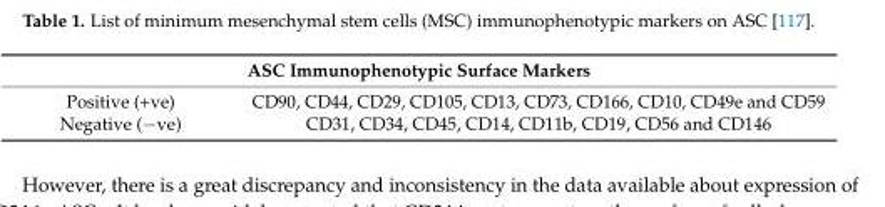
<table><thead><tr><td colspan="2">ASC Immunophenotypic Surface Markers</td></tr><tr><td>Positive (+ve)</td><td>CD90, CD44, CD29, CD105, CD13, CD73, CD166, CD10, CD49e and CD59</td></tr></thead><tbody><tr><td>Negative (−ve)</td><td>CD31, CD34, CD45, CD14, CD11b, CD19, CD56 and CD146</td></tr></tbody></table>